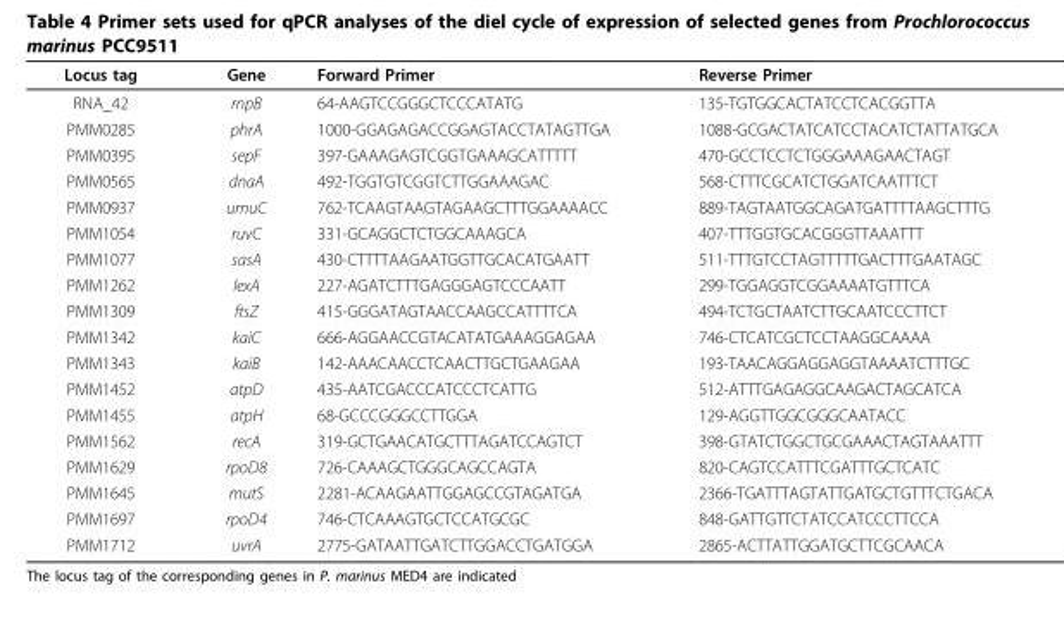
<table><thead><tr><td>Locus tag</td><td>Gene</td><td>Forward Primer</td><td>Reverse Primer</td></tr></thead><tbody><tr><td>RNA_42</td><td>rnpB</td><td>64-AAGTCCGGGCTCCCATATG</td><td>135-TGTGGCACTATCCTCACGGTTA</td></tr><tr><td>PMM0285</td><td>phrA</td><td>1000-GGAGAGACCGGAGTACCTATAGTTGA</td><td>1088-GCGACTATCATCCTACATCTATTATGCA</td></tr><tr><td>PMM0395</td><td>sepF</td><td>397-GAAAGAGTCGGTGAAAGCATTTTT</td><td>470-GCCTCCTCTGGGAAAGAACTAGT</td></tr><tr><td>PMM0565</td><td>dnaA</td><td>492-TGGTGTCGGTCTTGGAAAGAC</td><td>568-CTTTCGCATCTGGATCAATTTCT</td></tr><tr><td>PMM0937</td><td>umuC</td><td>762-TCAAGTAAGTAGAAGCTTTGGAAAACC</td><td>889-TAGTAATGGCAGATGATTTTAAGCTTTG</td></tr><tr><td>PMM1054</td><td>ruvC</td><td>331-GCAGGCTCTGGCAAAGCA</td><td>407-TTTGGTGCACGGGTTAAATTT</td></tr><tr><td>PMM1077</td><td>sasA</td><td>430-CTTTTAAGAATGGTTGCACATGAATT</td><td>511-TTTGTCCTAGTTTTTGACTTTGAATAGC</td></tr><tr><td>PMM1262</td><td>lexA</td><td>227-AGATCTTTGAGGGAGTCCCAATT</td><td>299-TGGAGGTCGGAAAATGTTTCA</td></tr><tr><td>PMM1309</td><td>ftsZ</td><td>415-GGGATAGTAACCAAGCCATTTTCA</td><td>494-TCTGCTAATCTTGCAATCCCTTCT</td></tr><tr><td>PMM1342</td><td>kaiC</td><td>666-AGGAACCGTACATATGAAAGGAGAA</td><td>746-CTCATCGCTCCTAAGGCAAAA</td></tr><tr><td>PMM1343</td><td>kaiB</td><td>142-AAACAACCTCAACTTGCTGAAGAA</td><td>193-TAACAGGAGGAGGTAAAATCTTTGC</td></tr><tr><td>PMM1452</td><td>atpD</td><td>435-AATCGACCCATCCCTCATTG</td><td>512-ATTTGAGAGGCAAGACTAGCATCA</td></tr><tr><td>PMM1455</td><td>atpH</td><td>68-GCCCGGGCCTTGGA</td><td>129-AGGTTGGCGGGCAATACC</td></tr><tr><td>PMM1562</td><td>recA</td><td>319-GCTGAACATGCTTTAGATCCAGTCT</td><td>398-GTATCTGGCTGCGAAACTAGTAAATTT</td></tr><tr><td>PMM1629</td><td>rpoD8</td><td>726-CAAAGCTGGGCAGCCAGTA</td><td>820-CAGTCCATTTCGATTTGCTCATC</td></tr><tr><td>PMM1645</td><td>mutS</td><td>2281-ACAAGAATTGGAGCCGTAGATGA</td><td>2366-TGATTTAGTATTGATGCTGTTTCTGACA</td></tr><tr><td>PMM1697</td><td>rpoD4</td><td>746-CTCAAAGTGCTCCATGCGC</td><td>848-GATTGTTCTATCCATCCCTTCCA</td></tr><tr><td>PMM1712</td><td>uvrA</td><td>2775-GATAATTGATCTTGGACCTGATGGA</td><td>2865-ACTTATTGGATGCTTCGCAACA</td></tr></tbody></table>